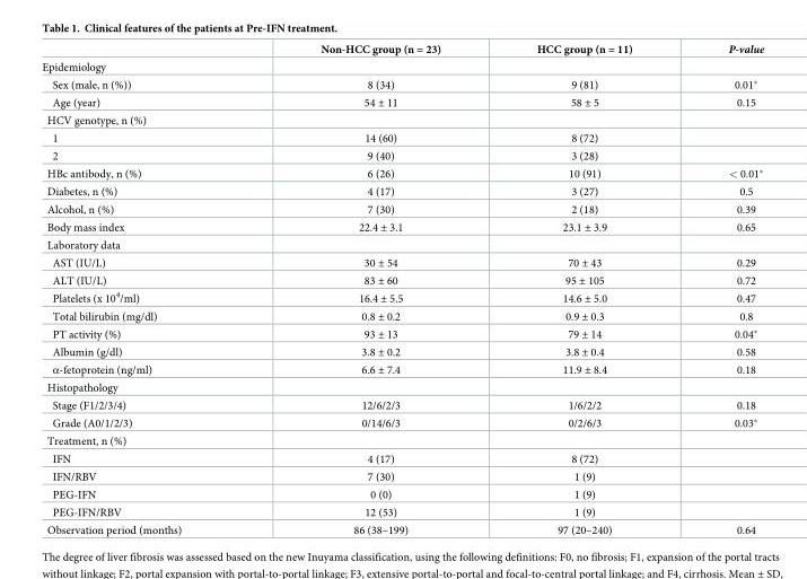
<table><thead><tr><td></td><td>Non-HCC group (n = 23)</td><td>HCC group (n = 11)</td><td>P-value</td></tr></thead><tbody><tr><td colspan="4">Epidemiology</td></tr><tr><td>Sex (male, n (%))</td><td>8 (34)</td><td>9 (81)</td><td>0.01*</td></tr><tr><td>Age (year)</td><td>54 ± 11</td><td>58 ± 5</td><td>0.15</td></tr><tr><td colspan="4">HCV genotype, n (%)</td></tr><tr><td>1</td><td>14 (60)</td><td>8 (72)</td><td></td></tr><tr><td>2</td><td>9 (40)</td><td>3 (28)</td><td></td></tr><tr><td>HBc antibody, n (%)</td><td>6 (26)</td><td>10 (91)</td><td>&lt; 0.01*</td></tr><tr><td>Diabetes, n (%)</td><td>4 (17)</td><td>3 (27)</td><td>0.5</td></tr><tr><td>Alcohol, n (%)</td><td>7 (30)</td><td>2 (18)</td><td>0.39</td></tr><tr><td>Body mass index</td><td>22.4 ± 3.1</td><td>23.1 ± 3.9</td><td>0.65</td></tr><tr><td colspan="4">Laboratory data</td></tr><tr><td>AST (IU/L)</td><td>30 ± 54</td><td>70 ± 43</td><td>0.29</td></tr><tr><td>ALT (IU/L)</td><td>83 ± 60</td><td>95 ± 105</td><td>0.72</td></tr><tr><td>Platelets (x 10<sup>4</sup>/ml)</td><td>16.4 ± 5.5</td><td>14.6 ± 5.0</td><td>0.47</td></tr><tr><td>Total bilirubin (mg/dl)</td><td>0.8 ± 0.2</td><td>0.9 ± 0.3</td><td>0.8</td></tr><tr><td>PT activity (%)</td><td>93 ± 13</td><td>79 ± 14</td><td>0.04*</td></tr><tr><td>Albumin (g/dl)</td><td>3.8 ± 0.2</td><td>3.8 ± 0.4</td><td>0.58</td></tr><tr><td>α-fetoprotein (ng/ml)</td><td>6.6 ± 7.4</td><td>11.9 ± 8.4</td><td>0.18</td></tr><tr><td colspan="4">Histopathology</td></tr><tr><td>Stage (F1/2/3/4)</td><td>12/6/2/3</td><td>1/6/2/2</td><td>0.18</td></tr><tr><td>Grade (A0/1/2/3)</td><td>0/14/6/3</td><td>0/2/6/3</td><td>0.03*</td></tr><tr><td colspan="4">Treatment, n (%)</td></tr><tr><td>IFN</td><td>4 (17)</td><td>8 (72)</td><td></td></tr><tr><td>IFN/RBV</td><td>7 (30)</td><td>1 (9)</td><td></td></tr><tr><td>PEG-IFN</td><td>0 (0)</td><td>1 (9)</td><td></td></tr><tr><td>PEG-IFN/RBV</td><td>12 (53)</td><td>1 (9)</td><td></td></tr><tr><td>Observation period (months)</td><td>86 (38–199)</td><td>97 (20–240)</td><td>0.64</td></tr></tbody></table>